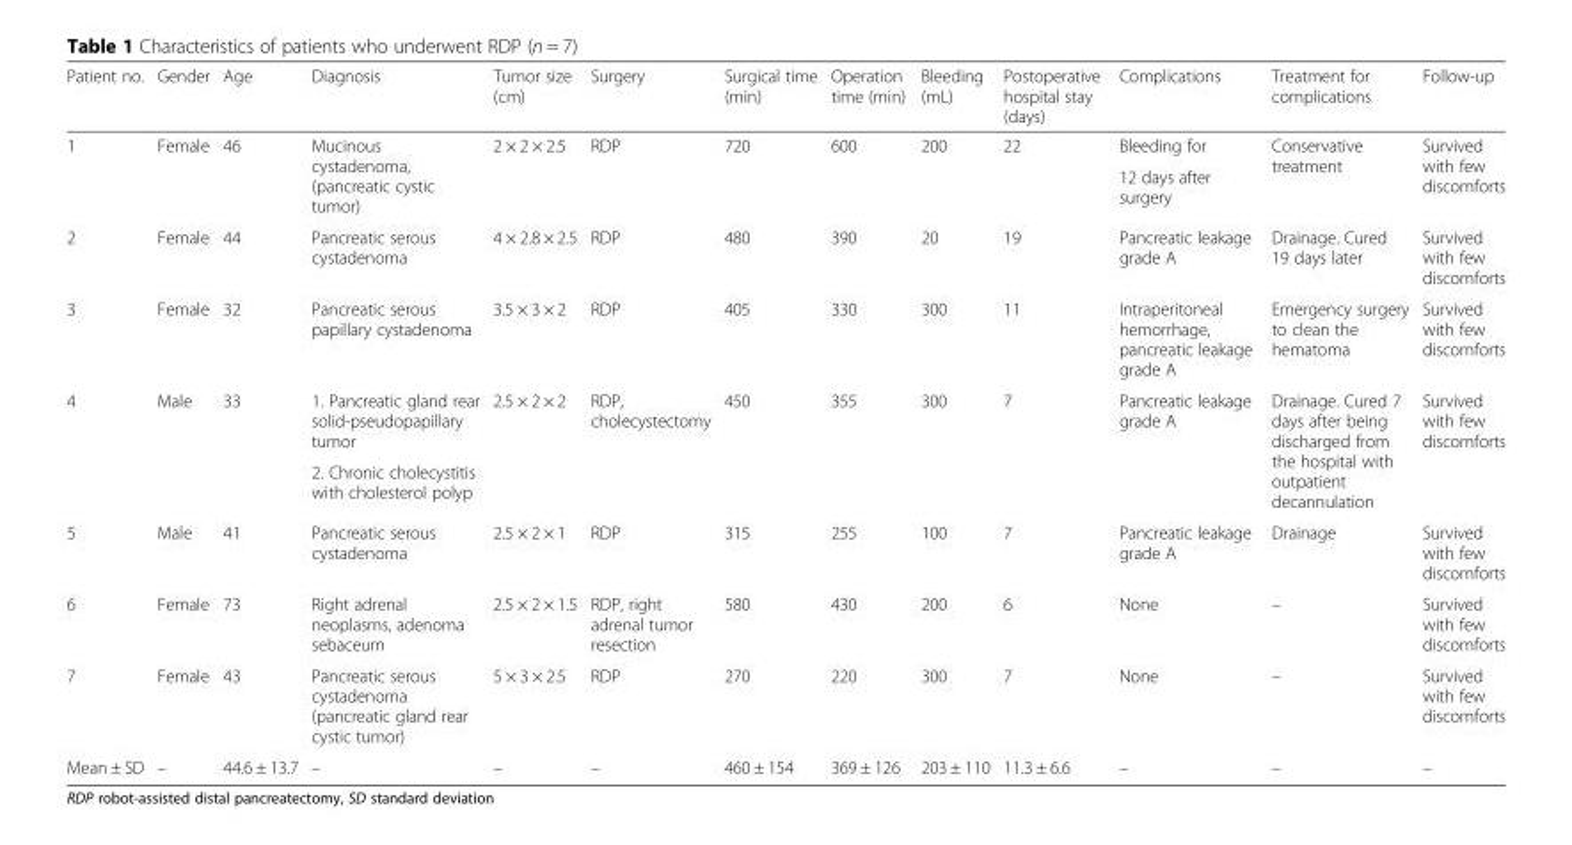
<table><thead><tr><td>Patient no.</td><td>Gender</td><td>Age</td><td>Diagnosis</td><td>Tumor size (cm)</td><td>Surgery</td><td>Surgical time (min)</td><td>Operation time (min)</td><td>Bleeding (mL)</td><td>Postoperative hospital stay (days)</td><td>Complications</td><td>Treatment for complications</td><td>Follow-up</td></tr></thead><tbody><tr><td rowspan="2">1</td><td rowspan="2">Female</td><td rowspan="2">46</td><td rowspan="2">Mucinous cystadenoma, (pancreatic cystic tumor)</td><td rowspan="2">2 × 2 × 2.5</td><td rowspan="2">RDP</td><td rowspan="2">720</td><td rowspan="2">600</td><td rowspan="2">200</td><td rowspan="2">22</td><td>Bleeding for</td><td rowspan="2">Conservative treatment</td><td rowspan="2">Survived with few discomforts</td></tr><tr><td>12 days after surgery</td></tr><tr><td>2</td><td>Female</td><td>44</td><td>Pancreatic serous cystadenoma</td><td>4 × 2.8 × 2.5</td><td>RDP</td><td>480</td><td>390</td><td>20</td><td>19</td><td>Pancreatic leakage grade A</td><td>Drainage. Cured 19 days later</td><td>Survived with few discomforts</td></tr><tr><td>3</td><td>Female</td><td>32</td><td>Pancreatic serous papillary cystadenoma</td><td>3.5 × 3 × 2</td><td>RDP</td><td>405</td><td>330</td><td>300</td><td>11</td><td>Intraperitoneal hemorrhage, pancreatic leakage grade A</td><td>Emergency surgery to clean the hematoma</td><td>Survived with few discomforts</td></tr><tr><td rowspan="2">4</td><td rowspan="2">Male</td><td rowspan="2">33</td><td>1. Pancreatic gland rear solid-pseudopapillary tumor</td><td rowspan="2">2.5 × 2 × 2</td><td rowspan="2">RDP, cholecystectomy</td><td rowspan="2">450</td><td rowspan="2">355</td><td rowspan="2">300</td><td rowspan="2">7</td><td rowspan="2">Pancreatic leakage grade A</td><td rowspan="2">Drainage. Cured 7 days after being discharged from the hospital with outpatient decannulation</td><td rowspan="2">Survived with few discomforts</td></tr><tr><td>2. Chronic cholecystitis with cholesterol polyp</td></tr><tr><td>5</td><td>Male</td><td>41</td><td>Pancreatic serous cystadenoma</td><td>2.5 × 2 × 1</td><td>RDP</td><td>315</td><td>255</td><td>100</td><td>7</td><td>Pancreatic leakage grade A</td><td>Drainage</td><td>Survived with few discomforts</td></tr><tr><td>6</td><td>Female</td><td>73</td><td>Right adrenal neoplasms, adenoma sebaceum</td><td>2.5 × 2 × 1.5</td><td>RDP, right adrenal tumor resection</td><td>580</td><td>430</td><td>200</td><td>6</td><td>None</td><td>–</td><td>Survived with few discomforts</td></tr><tr><td>7</td><td>Female</td><td>43</td><td>Pancreatic serous cystadenoma (pancreatic gland rear cystic tumor)</td><td>5 × 3 × 2.5</td><td>RDP</td><td>270</td><td>220</td><td>300</td><td>7</td><td>None</td><td>–</td><td>Survived with few discomforts</td></tr><tr><td>Mean ± SD</td><td>–</td><td>44.6 ± 13.7</td><td>–</td><td>–</td><td>–</td><td>460 ± 154</td><td>369 ± 126</td><td>203 ± 110</td><td>11.3 ± 6.6</td><td>–</td><td>–</td><td>–</td></tr></tbody></table>